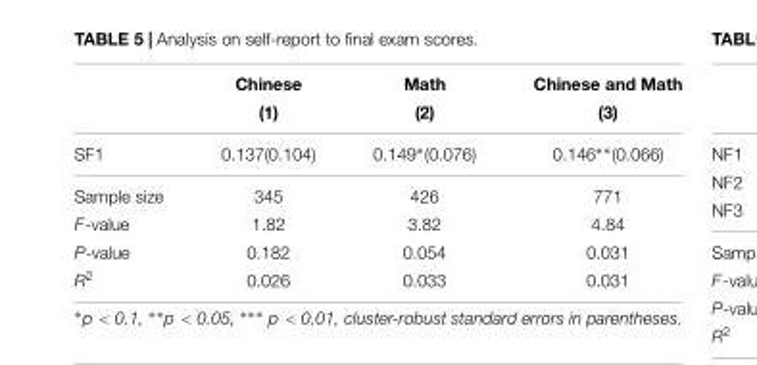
<table><thead><tr><td rowspan="2"></td><td rowspan="2">Chinese (1)</td><td rowspan="2">Math (2)</td><td rowspan="2">Chinese and Math (3)</td></tr><tr></tr></thead><tbody><tr><td>SF1</td><td>0.137(0.104)</td><td>0.149∗(0.076)</td><td>0.146∗∗(0.066)</td></tr><tr><td>Sample size</td><td>345</td><td>426</td><td>771</td></tr><tr><td>F-value</td><td>1.82</td><td>3.82</td><td>4.84</td></tr><tr><td>P-value</td><td>0.182</td><td>0.054</td><td>0.031</td></tr><tr><td>R<sup>2</sup></td><td>0.026</td><td>0.033</td><td>0.031</td></tr></tbody></table>